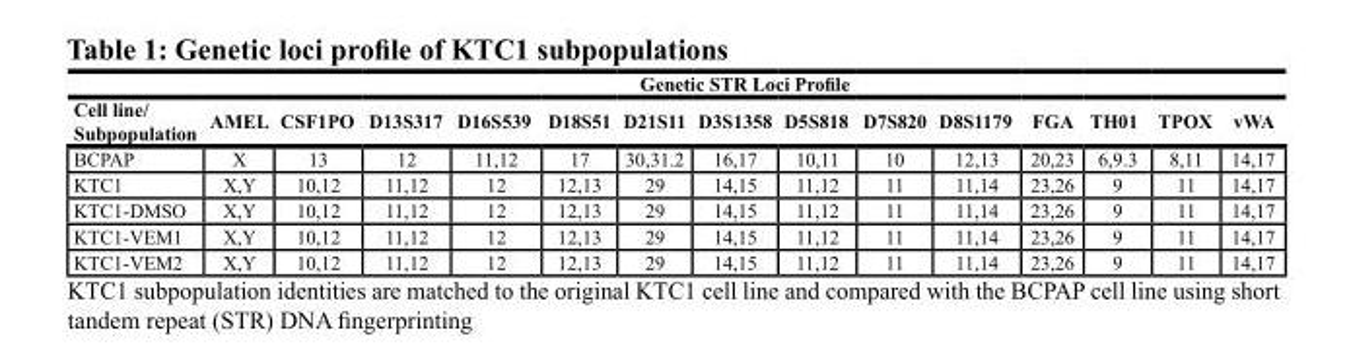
<table><thead><tr><td rowspan="2">Cell line/ Subpopulation</td><td colspan="14">Genetic STR Loci Profile</td></tr><tr><td>AMEL</td><td>CSF1PO</td><td>D13S317</td><td>D16S539</td><td>D18S51</td><td>D21S11</td><td>D3S1358</td><td>D5S818</td><td>D7S820</td><td>D8S1179</td><td>FGA</td><td>TH01</td><td>TPOX</td><td>vWA</td></tr></thead><tbody><tr><td>BCPAP</td><td>X</td><td>13</td><td>12</td><td>11,12</td><td>17</td><td>30,31.2</td><td>16,17</td><td>10,11</td><td>10</td><td>12,13</td><td>20,23</td><td>6,9.3</td><td>8,11</td><td>14,17</td></tr><tr><td>KTC1</td><td>X,Y</td><td>10,12</td><td>11,12</td><td>12</td><td>12,13</td><td>29</td><td>14,15</td><td>11,12</td><td>11</td><td>11,14</td><td>23,26</td><td>9</td><td>11</td><td>14,17</td></tr><tr><td>KTC1-DMSO</td><td>X,Y</td><td>10,12</td><td>11,12</td><td>12</td><td>12,13</td><td>29</td><td>14,15</td><td>11,12</td><td>11</td><td>11,14</td><td>23,26</td><td>9</td><td>11</td><td>14,17</td></tr><tr><td>KTC1-VEM1</td><td>X,Y</td><td>10,12</td><td>11,12</td><td>12</td><td>12,13</td><td>29</td><td>14,15</td><td>11,12</td><td>11</td><td>11,14</td><td>23,26</td><td>9</td><td>11</td><td>14,17</td></tr><tr><td>KTC1-VEM2</td><td>X,Y</td><td>10,12</td><td>11,12</td><td>12</td><td>12,13</td><td>29</td><td>14,15</td><td>11,12</td><td>11</td><td>11,14</td><td>23,26</td><td>9</td><td>11</td><td>14,17</td></tr></tbody></table>